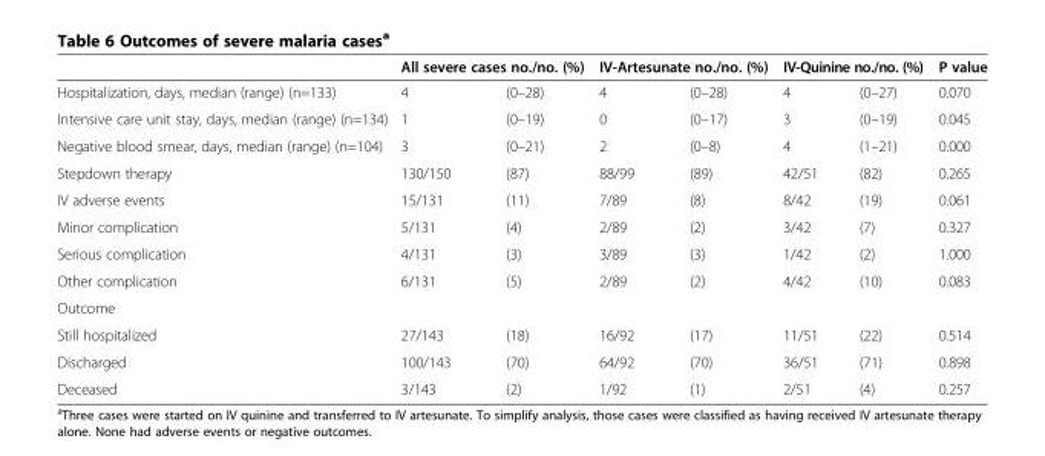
<table><thead><tr><td rowspan="2">Hospitalization, days, median (range) (n=133)</td><td colspan="2">All severe cases no./no. (%)</td><td colspan="2">IV-Artesunate no./no. (%)</td><td colspan="2">IV-Quinine no./no. (%)</td><td rowspan="2">P value 0.070</td></tr><tr><td>4</td><td>(0–28)</td><td>4</td><td>(0–28)</td><td>4</td><td>(0–27)</td></tr></thead><tbody><tr><td>Intensive care unit stay, days, median (range) (n=134)</td><td>1</td><td>(0–19)</td><td>0</td><td>(0–17)</td><td>3</td><td>(0–19)</td><td>0.045</td></tr><tr><td>Negative blood smear, days, median (range) (n=104)</td><td>3</td><td>(0–21)</td><td>2</td><td>(0–8)</td><td>4</td><td>(1–21)</td><td>0.000</td></tr><tr><td>Stepdown therapy</td><td>130/150</td><td>(87)</td><td>88/99</td><td>(89)</td><td>42/51</td><td>(82)</td><td>0.265</td></tr><tr><td>IV adverse events</td><td>15/131</td><td>(11)</td><td>7/89</td><td>(8)</td><td>8/42</td><td>(19)</td><td>0.061</td></tr><tr><td>Minor complication</td><td>5/131</td><td>(4)</td><td>2/89</td><td>(2)</td><td>3/42</td><td>(7)</td><td>0.327</td></tr><tr><td>Serious complication</td><td>4/131</td><td>(3)</td><td>3/89</td><td>(3)</td><td>1/42</td><td>(2)</td><td>1.000</td></tr><tr><td>Other complication</td><td>6/131</td><td>(5)</td><td>2/89</td><td>(2)</td><td>4/42</td><td>(10)</td><td>0.083</td></tr><tr><td colspan="8">Outcome</td></tr><tr><td>Still hospitalized</td><td>27/143</td><td>(18)</td><td>16/92</td><td>(17)</td><td>11/51</td><td>(22)</td><td>0.514</td></tr><tr><td>Discharged</td><td>100/143</td><td>(70)</td><td>64/92</td><td>(70)</td><td>36/51</td><td>(71)</td><td>0.898</td></tr><tr><td>Deceased</td><td>3/143</td><td>(2)</td><td>1/92</td><td>(1)</td><td>2/51</td><td>(4)</td><td>0.257</td></tr></tbody></table>